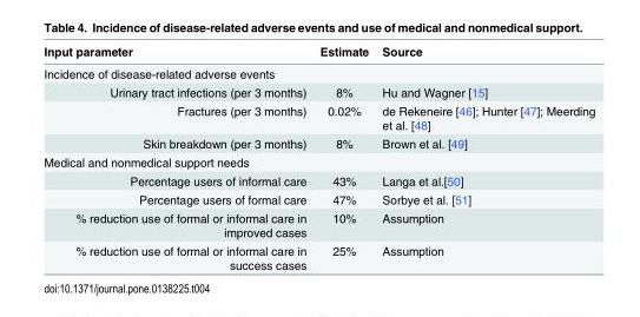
<table><thead><tr><td>Input parameter</td><td>Estimate</td><td>Source</td></tr></thead><tbody><tr><td colspan="3">Incidence of disease-related adverse events</td></tr><tr><td>Urinary tract infections (per 3 months)</td><td>8%</td><td>Hu and Wagner [15]</td></tr><tr><td>Fractures (per 3 months)</td><td>0.02%</td><td>de Rekeneire [46]; Hunter [47]; Meerding et al. [48]</td></tr><tr><td>Skin breakdown (per 3 months)</td><td>8%</td><td>Brown et al. [49]</td></tr><tr><td colspan="3">Medical and nonmedical support needs</td></tr><tr><td>Percentage users of informal care</td><td>43%</td><td>Langa et al.[50]</td></tr><tr><td>Percentage users of formal care</td><td>47%</td><td>Sorbye et al. [51]</td></tr><tr><td>% reduction use of formal or informal care in improved cases</td><td>10%</td><td>Assumption</td></tr><tr><td>% reduction use of formal or informal care in success cases</td><td>25%</td><td>Assumption</td></tr></tbody></table>